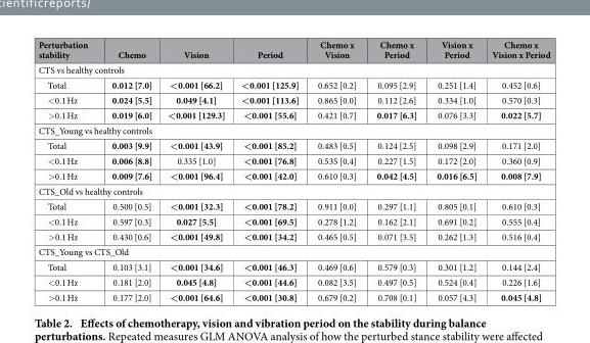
<table><thead><tr><td>Perturbation stability</td><td>Chemo</td><td>Vision</td><td>Period</td><td>Chemo x Vision</td><td>Chemo x Period</td><td>Vision x Period</td><td>Chemo x Vision x Period</td></tr></thead><tbody><tr><td colspan="8">CTS vs healthy controls</td></tr><tr><td>Total</td><td>0.012 [7.0]</td><td>&lt;0.001 [66.2]</td><td>&lt;0.001 [125.9]</td><td>0.652 [0.2]</td><td>0.095 [2.9]</td><td>0.251 [1.4]</td><td>0.452 [0.6]</td></tr><tr><td>&lt; 0.1 Hz</td><td>0.024 [5.5]</td><td>0.049 [4.1]</td><td>&lt;0.001 [113.6]</td><td>0.865 [0.0]</td><td>0.112 [2.6]</td><td>0.334 [1.0]</td><td>0.570 [0.3]</td></tr><tr><td>&gt; 0.1 Hz</td><td>0.019 [6.0]</td><td>&lt;0.001 [129.3]</td><td>&lt;0.001 [55.6]</td><td>0.421 [0.7]</td><td>0.017 [6.3]</td><td>0.076 [3.3]</td><td>0.022 [5.7]</td></tr><tr><td colspan="8">CTS_Young vs healthy controls</td></tr><tr><td>Total</td><td>0.003 [9.9]</td><td>&lt;0.001 [43.9]</td><td>&lt;0.001 [85.2]</td><td>0.483 [0.5]</td><td>0.124 [2.5]</td><td>0.098 [2.9]</td><td>0.171 [2.0]</td></tr><tr><td>&lt; 0.1 Hz</td><td>0.006 [8.8]</td><td>0.335 [1.0]</td><td>&lt;0.001 [76.8]</td><td>0.535 [0.4]</td><td>0.227 [1.5]</td><td>0.172 [2.0]</td><td>0.360 [0.9]</td></tr><tr><td>&gt; 0.1 Hz</td><td>0.009 [7.6]</td><td>&lt;0.001 [96.4]</td><td>&lt;0.001 [42.0]</td><td>0.610 [0.3]</td><td>0.042 [4.5]</td><td>0.016 [6.5]</td><td>0.008 [7.9]</td></tr><tr><td colspan="8">CTS_Old vs healthy controls</td></tr><tr><td>Total</td><td>0.500 [0.5]</td><td>&lt;0.001 [32.3]</td><td>&lt;0.001 [78.2]</td><td>0.911 [0.0]</td><td>0.297 [1.1]</td><td>0.805 [0.1]</td><td>0.610 [0.3]</td></tr><tr><td>&lt; 0.1 Hz</td><td>0.597 [0.3]</td><td>0.027 [5.5]</td><td>&lt;0.001 [69.5]</td><td>0.278 [1.2]</td><td>0.162 [2.1]</td><td>0.691 [0.2]</td><td>0.555 [0.4]</td></tr><tr><td>&gt; 0.1 Hz</td><td>0.430 [0.6]</td><td>&lt;0.001 [49.8]</td><td>&lt;0.001 [34.2]</td><td>0.465 [0.5]</td><td>0.071 [3.5]</td><td>0.262 [1.3]</td><td>0.516 [0.4]</td></tr><tr><td colspan="8">CTS_Young vs CTS_Old</td></tr><tr><td>Total</td><td>0.103 [3.1]</td><td>&lt;0.001 [34.6]</td><td>&lt;0.001 [46.3]</td><td>0.469 [0.6]</td><td>0.579 [0.3]</td><td>0.301 [1.2]</td><td>0.144 [2.4]</td></tr><tr><td>&lt; 0.1 Hz</td><td>0.181 [2.0]</td><td>0.045 [4.8]</td><td>&lt;0.001 [44.6]</td><td>0.082 [3.5]</td><td>0.497 [0.5]</td><td>0.524 [0.4]</td><td>0.226 [1.6]</td></tr><tr><td>&gt; 0.1 Hz</td><td>0.177 [2.0]</td><td>&lt;0.001 [64.6]</td><td>&lt;0.001 [30.8]</td><td>0.679 [0.2]</td><td>0.708 [0.1]</td><td>0.057 [4.3]</td><td>0.045 [4.8]</td></tr></tbody></table>